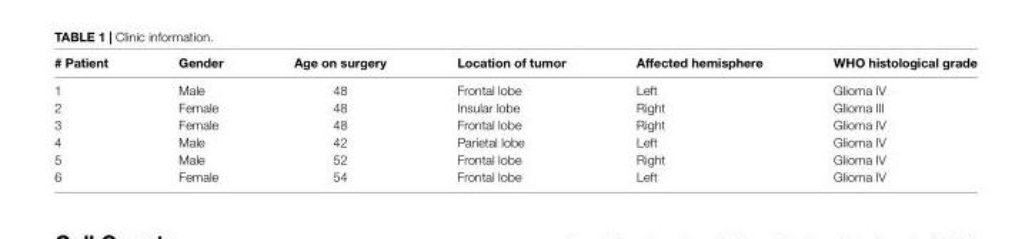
<table><thead><tr><td># Patient</td><td>Gender</td><td>Age on surgery</td><td>Location of tumor</td><td>Affected hemisphere</td><td>WHO histological grade</td></tr></thead><tbody><tr><td>1</td><td>Male</td><td>48</td><td>Frontal lobe</td><td>Left</td><td>Glioma IV</td></tr><tr><td>2</td><td>Female</td><td>48</td><td>Insular lobe</td><td>Right</td><td>Glioma III</td></tr><tr><td>3</td><td>Female</td><td>48</td><td>Frontal lobe</td><td>Right</td><td>Glioma IV</td></tr><tr><td>4</td><td>Male</td><td>42</td><td>Parietal lobe</td><td>Left</td><td>Glioma IV</td></tr><tr><td>5</td><td>Male</td><td>52</td><td>Frontal lobe</td><td>Right</td><td>Glioma IV</td></tr><tr><td>6</td><td>Female</td><td>54</td><td>Frontal lobe</td><td>Left</td><td>Glioma IV</td></tr></tbody></table>